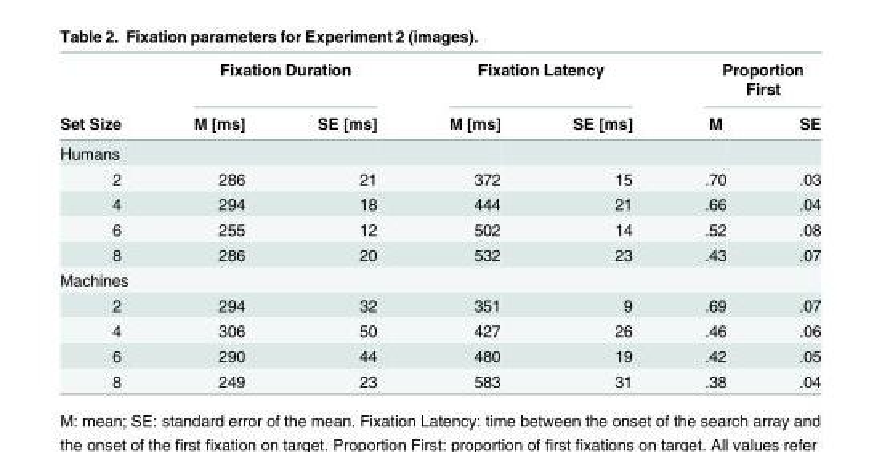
<table><thead><tr><td rowspan="2">Set Size</td><td colspan="2">Fixation Duration</td><td colspan="2">Fixation Latency</td><td colspan="2">Proportion First</td></tr><tr><td>M [ms]</td><td>SE [ms]</td><td>M [ms]</td><td>SE [ms]</td><td>M</td><td>SE</td></tr></thead><tbody><tr><td colspan="7">Humans</td></tr><tr><td>2</td><td>286</td><td>21</td><td>372</td><td>15</td><td>.70</td><td>.03</td></tr><tr><td>4</td><td>294</td><td>18</td><td>444</td><td>21</td><td>.66</td><td>.04</td></tr><tr><td>6</td><td>255</td><td>12</td><td>502</td><td>14</td><td>.52</td><td>.08</td></tr><tr><td>8</td><td>286</td><td>20</td><td>532</td><td>23</td><td>.43</td><td>.07</td></tr><tr><td colspan="7">Machines</td></tr><tr><td>2</td><td>294</td><td>32</td><td>351</td><td>9</td><td>.69</td><td>.07</td></tr><tr><td>4</td><td>306</td><td>50</td><td>427</td><td>26</td><td>.46</td><td>.06</td></tr><tr><td>6</td><td>290</td><td>44</td><td>480</td><td>19</td><td>.42</td><td>.05</td></tr><tr><td>8</td><td>249</td><td>23</td><td>583</td><td>31</td><td>.38</td><td>.04</td></tr></tbody></table>